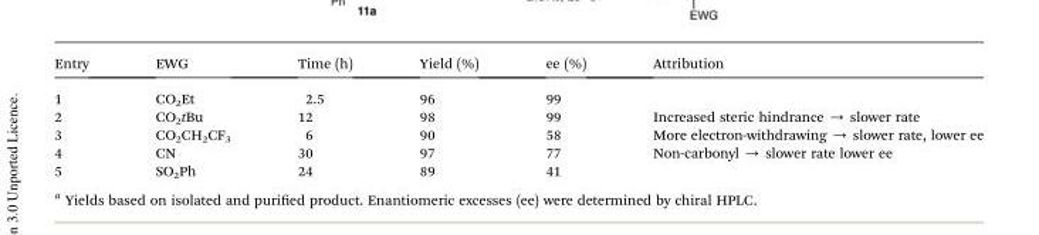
<table><thead><tr><td>Entry</td><td>EWG</td><td>Time (h)</td><td>Yield (%)</td><td>ee (%)</td><td>Attribution</td></tr></thead><tbody><tr><td>1</td><td>CO<sub>2</sub>Et</td><td>2.5</td><td>96</td><td>99</td><td></td></tr><tr><td>2</td><td>CO<sub>2</sub>tBu</td><td>12</td><td>98</td><td>99</td><td>Increased steric hindrance → slower rate</td></tr><tr><td>3</td><td>CO<sub>2</sub>CH<sub>2</sub>CF<sub>3</sub></td><td>6</td><td>90</td><td>58</td><td>More electron-withdrawing → slower rate, lower ee</td></tr><tr><td>4</td><td>CN</td><td>30</td><td>97</td><td>77</td><td rowspan="2">Non-carbonyl → slower rate lower ee</td></tr><tr><td>5</td><td>SO<sub>2</sub>Ph</td><td>24</td><td>89</td><td>41</td></tr></tbody></table>